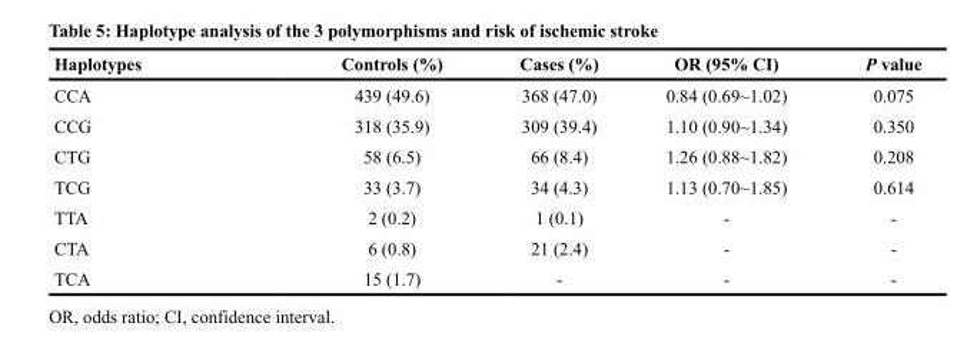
<table><thead><tr><td>Haplotypes</td><td>Controls (%)</td><td>Cases (%)</td><td>OR (95% CI)</td><td>P value</td></tr></thead><tbody><tr><td>CCA</td><td>439 (49.6)</td><td>368 (47.0)</td><td>0.84 (0.69~1.02)</td><td>0.075</td></tr><tr><td>CCG</td><td>318 (35.9)</td><td>309 (39.4)</td><td>1.10 (0.90~1.34)</td><td>0.350</td></tr><tr><td>CTG</td><td>58 (6.5)</td><td>66 (8.4)</td><td>1.26 (0.88~1.82)</td><td>0.208</td></tr><tr><td>TCG</td><td>33 (3.7)</td><td>34 (4.3)</td><td>1.13 (0.70~1.85)</td><td>0.614</td></tr><tr><td>TTA</td><td>2 (0.2)</td><td>1 (0.1)</td><td>-</td><td>-</td></tr><tr><td>CTA</td><td>6 (0.8)</td><td>21 (2.4)</td><td>-</td><td>-</td></tr><tr><td>TCA</td><td>15 (1.7)</td><td>-</td><td>-</td><td>-</td></tr></tbody></table>